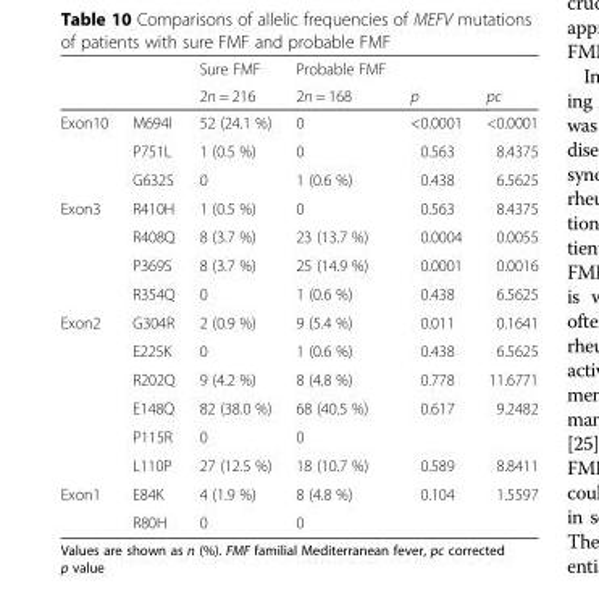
<table><thead><tr><td rowspan="2"></td><td rowspan="2"></td><td rowspan="2">Sure FMF 2n = 216</td><td rowspan="2">Probable FMF 2n = 168</td><td rowspan="2">p</td><td rowspan="2">pc</td></tr><tr></tr></thead><tbody><tr><td rowspan="3">Exon10</td><td>M694I</td><td>52 (24.1 %)</td><td>0</td><td>&lt;0.0001</td><td>&lt;0.0001</td></tr><tr><td>P751L</td><td>1 (0.5 %)</td><td>0</td><td>0.563</td><td>8.4375</td></tr><tr><td>G632S</td><td>0</td><td>1 (0.6 %)</td><td>0.438</td><td>6.5625</td></tr><tr><td rowspan="4">Exon3</td><td>R410H</td><td>1 (0.5 %)</td><td>0</td><td>0.563</td><td>8.4375</td></tr><tr><td>R408Q</td><td>8 (3.7 %)</td><td>23 (13.7 %)</td><td>0.0004</td><td>0.0055</td></tr><tr><td>P369S</td><td>8 (3.7 %)</td><td>25 (14.9 %)</td><td>0.0001</td><td>0.0016</td></tr><tr><td>R354Q</td><td>0</td><td>1 (0.6 %)</td><td>0.438</td><td>6.5625</td></tr><tr><td rowspan="6">Exon2</td><td>G304R</td><td>2 (0.9 %)</td><td>9 (5.4 %)</td><td>0.011</td><td>0.1641</td></tr><tr><td>E225K</td><td>0</td><td>1 (0.6 %)</td><td>0.438</td><td>6.5625</td></tr><tr><td>R202Q</td><td>9 (4.2 %)</td><td>8 (4.8 %)</td><td>0.778</td><td>11.6771</td></tr><tr><td>E148Q</td><td>82 (38.0 %)</td><td>68 (40.5 %)</td><td>0.617</td><td>9.2482</td></tr><tr><td>P115R</td><td>0</td><td>0</td><td></td><td></td></tr><tr><td>L110P</td><td>27 (12.5 %)</td><td>18 (10.7 %)</td><td>0.589</td><td>8.8411</td></tr><tr><td rowspan="2">Exon1</td><td>E84K</td><td>4 (1.9 %)</td><td>8 (4.8 %)</td><td>0.104</td><td>1.5597</td></tr><tr><td>R80H</td><td>0</td><td>0</td><td></td><td></td></tr></tbody></table>